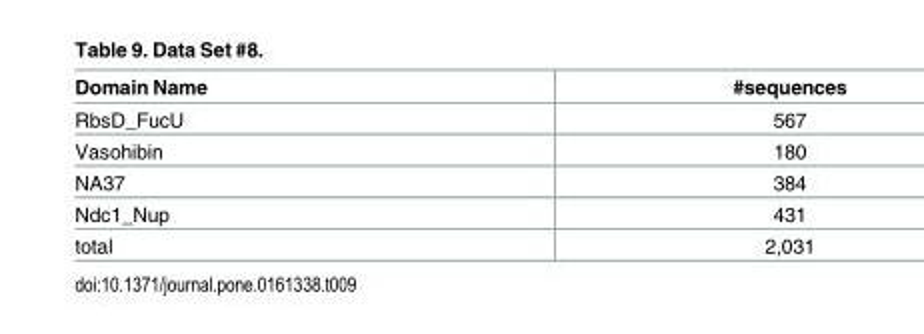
<table><thead><tr><td>Domain Name</td><td>#sequences</td></tr></thead><tbody><tr><td>RbsD_FucU</td><td>567</td></tr><tr><td>Vasohibin</td><td>180</td></tr><tr><td>NA37</td><td>384</td></tr><tr><td>Ndc1_Nup</td><td>431</td></tr><tr><td>total</td><td>2,031</td></tr></tbody></table>